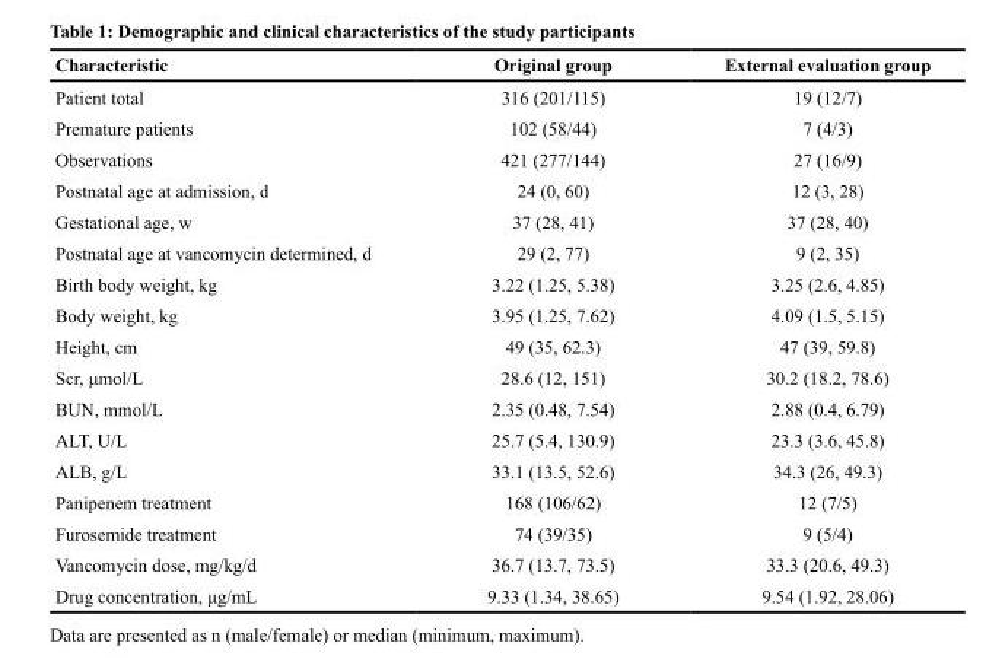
<table><thead><tr><td>Characteristic</td><td>Original group</td><td>External evaluation group</td></tr></thead><tbody><tr><td>Patient total</td><td>316 (201/115)</td><td>19 (12/7)</td></tr><tr><td>Premature patients</td><td>102 (58/44)</td><td>7 (4/3)</td></tr><tr><td>Observations</td><td>421 (277/144)</td><td>27 (16/9)</td></tr><tr><td>Postnatal age at admission, d</td><td>24 (0, 60)</td><td>12 (3, 28)</td></tr><tr><td>Gestational age, w</td><td>37 (28, 41)</td><td>37 (28, 40)</td></tr><tr><td>Postnatal age at vancomycin determined, d</td><td>29 (2, 77)</td><td>9 (2, 35)</td></tr><tr><td>Birth body weight, kg</td><td>3.22 (1.25, 5.38)</td><td>3.25 (2.6, 4.85)</td></tr><tr><td>Body weight, kg</td><td>3.95 (1.25, 7.62)</td><td>4.09 (1.5, 5.15)</td></tr><tr><td>Height, cm</td><td>49 (35, 62.3)</td><td>47 (39, 59.8)</td></tr><tr><td>Scr, μmol/L</td><td>28.6 (12, 151)</td><td>30.2 (18.2, 78.6)</td></tr><tr><td>BUN, mmol/L</td><td>2.35 (0.48, 7.54)</td><td>2.88 (0.4, 6.79)</td></tr><tr><td>ALT, U/L</td><td>25.7 (5.4, 130.9)</td><td>23.3 (3.6, 45.8)</td></tr><tr><td>ALB, g/L</td><td>33.1 (13.5, 52.6)</td><td>34.3 (26, 49.3)</td></tr><tr><td>Panipenem treatment</td><td>168 (106/62)</td><td>12 (7/5)</td></tr><tr><td>Furosemide treatment</td><td>74 (39/35)</td><td>9 (5/4)</td></tr><tr><td>Vancomycin dose, mg/kg/d</td><td>36.7 (13.7, 73.5)</td><td>33.3 (20.6, 49.3)</td></tr><tr><td>Drug concentration, μg/mL</td><td>9.33 (1.34, 38.65)</td><td>9.54 (1.92, 28.06)</td></tr></tbody></table>